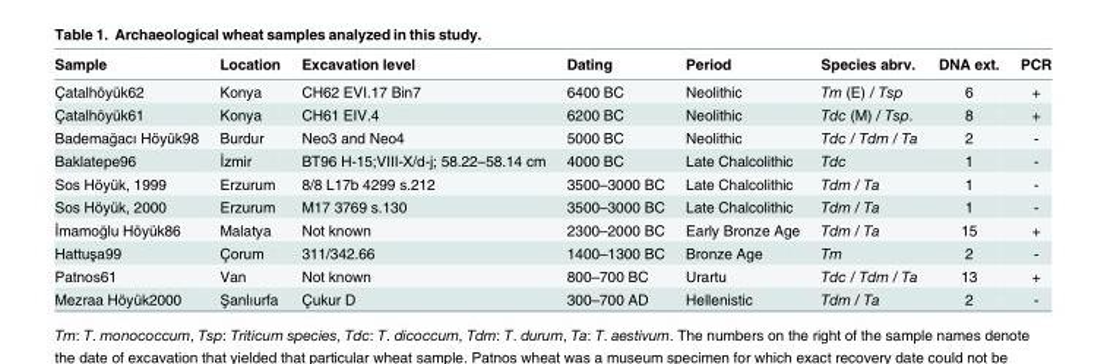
<table><thead><tr><td>Sample</td><td>Location</td><td>Excavation level</td><td>Dating</td><td>Period</td><td>Species abrv.</td><td>DNA ext.</td><td>PCR</td></tr></thead><tbody><tr><td>Çatalhöyük62</td><td>Konya</td><td>CH62 EVI.17 Bin7</td><td>6400 BC</td><td>Neolithic</td><td>Tm (E) / Tsp</td><td>6</td><td>+</td></tr><tr><td>Çatalhöyük61</td><td>Konya</td><td>CH61 EIV.4</td><td>6200 BC</td><td>Neolithic</td><td>Tdc (M) / Tsp.</td><td>8</td><td>+</td></tr><tr><td>Bademağacı Höyük98</td><td>Burdur</td><td>Neo3 and Neo4</td><td>5000 BC</td><td>Neolithic</td><td>Tdc / Tdm / Ta</td><td>2</td><td>-</td></tr><tr><td>Baklatepe96</td><td>İzmir</td><td>BT96 H-15;VIII-X/d-j; 58.22–58.14 cm</td><td>4000 BC</td><td>Late Chalcolithic</td><td>Tdc</td><td>1</td><td>-</td></tr><tr><td>Sos Höyük, 1999</td><td>Erzurum</td><td>8/8 L17b 4299 s.212</td><td>3500–3000 BC</td><td>Late Chalcolithic</td><td>Tdm / Ta</td><td>1</td><td>-</td></tr><tr><td>Sos Höyük, 2000</td><td>Erzurum</td><td>M17 3769 s.130</td><td>3500–3000 BC</td><td>Late Chalcolithic</td><td>Tdm / Ta</td><td>1</td><td>-</td></tr><tr><td>İmamoğlu Höyük86</td><td>Malatya</td><td>Not known</td><td>2300–2000 BC</td><td>Early Bronze Age</td><td>Tdm / Ta</td><td>15</td><td>+</td></tr><tr><td>Hattuşa99</td><td>Çorum</td><td>311/342.66</td><td>1400–1300 BC</td><td>Bronze Age</td><td>Tm</td><td>2</td><td>-</td></tr><tr><td>Patnos61</td><td>Van</td><td>Not known</td><td>800–700 BC</td><td>Urartu</td><td>Tdc / Tdm / Ta</td><td>13</td><td>+</td></tr><tr><td>Mezraa Höyük2000</td><td>Şanlıurfa</td><td>Çukur D</td><td>300–700 AD</td><td>Hellenistic</td><td>Tdm / Ta</td><td>2</td><td>-</td></tr></tbody></table>